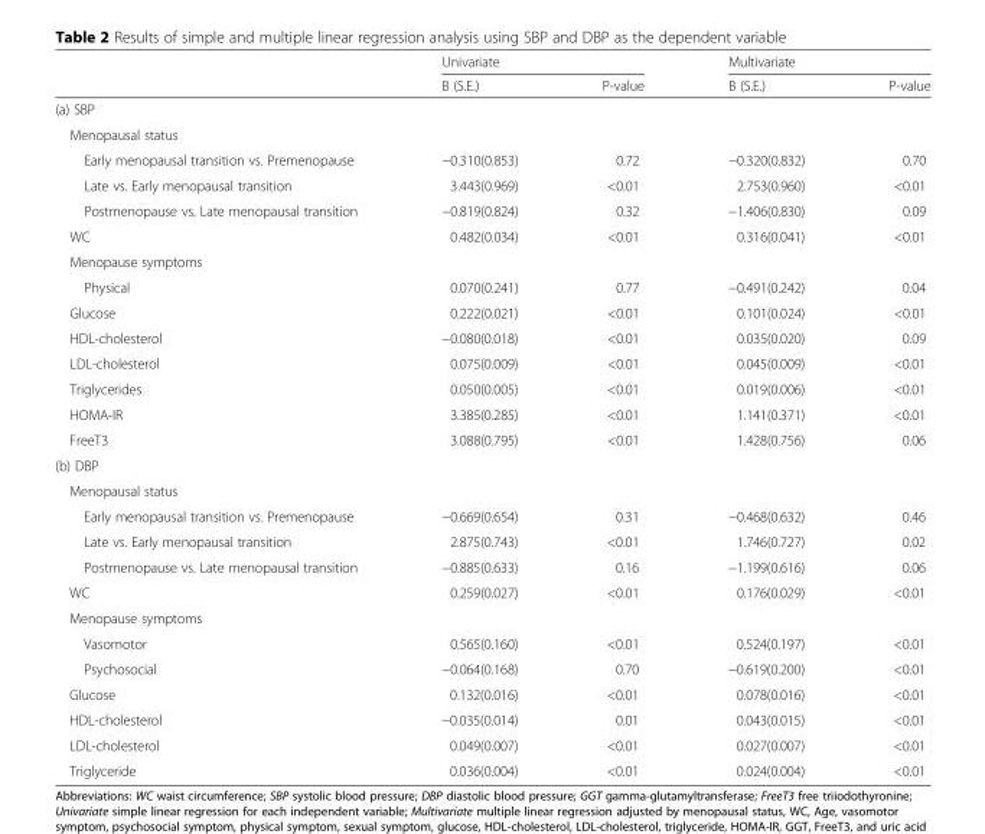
<table><thead><tr><td rowspan="2"></td><td colspan="2">Univariate</td><td colspan="2">Multivariate</td></tr><tr><td>Β (S.E.)</td><td>P-value</td><td>Β (S.E.)</td><td>P-value</td></tr></thead><tbody><tr><td colspan="5">(a) SBP</td></tr><tr><td colspan="5">Menopausal status</td></tr><tr><td>Early menopausal transition vs. Premenopause</td><td>−0.310(0.853)</td><td>0.72</td><td>−0.320(0.832)</td><td>0.70</td></tr><tr><td>Late vs. Early menopausal transition</td><td>3.443(0.969)</td><td>&lt;0.01</td><td>2.753(0.960)</td><td>&lt;0.01</td></tr><tr><td>Postmenopause vs. Late menopausal transition</td><td>−0.819(0.824)</td><td>0.32</td><td>−1.406(0.830)</td><td>0.09</td></tr><tr><td>WC</td><td>0.482(0.034)</td><td>&lt;0.01</td><td>0.316(0.041)</td><td>&lt;0.01</td></tr><tr><td colspan="5">Menopause symptoms</td></tr><tr><td>Physical</td><td>0.070(0.241)</td><td>0.77</td><td>−0.491(0.242)</td><td>0.04</td></tr><tr><td>Glucose</td><td>0.222(0.021)</td><td>&lt;0.01</td><td>0.101(0.024)</td><td>&lt;0.01</td></tr><tr><td>HDL-cholesterol</td><td>−0.080(0.018)</td><td>&lt;0.01</td><td>0.035(0.020)</td><td>0.09</td></tr><tr><td>LDL-cholesterol</td><td>0.075(0.009)</td><td>&lt;0.01</td><td>0.045(0.009)</td><td>&lt;0.01</td></tr><tr><td>Triglycerides</td><td>0.050(0.005)</td><td>&lt;0.01</td><td>0.019(0.006)</td><td>&lt;0.01</td></tr><tr><td>HOMA-IR</td><td>3.385(0.285)</td><td>&lt;0.01</td><td>1.141(0.371)</td><td>&lt;0.01</td></tr><tr><td>FreeT3</td><td>3.088(0.795)</td><td>&lt;0.01</td><td>1.428(0.756)</td><td>0.06</td></tr><tr><td colspan="5">(b) DBP</td></tr><tr><td colspan="5">Menopausal status</td></tr><tr><td>Early menopausal transition vs. Premenopause</td><td>−0.669(0.654)</td><td>0.31</td><td>−0.468(0.632)</td><td>0.46</td></tr><tr><td>Late vs. Early menopausal transition</td><td>2.875(0.743)</td><td>&lt;0.01</td><td>1.746(0.727)</td><td>0.02</td></tr><tr><td>Postmenopause vs. Late menopausal transition</td><td>−0.885(0.633)</td><td>0.16</td><td>−1.199(0.616)</td><td>0.06</td></tr><tr><td>WC</td><td>0.259(0.027)</td><td>&lt;0.01</td><td>0.176(0.029)</td><td>&lt;0.01</td></tr><tr><td colspan="5">Menopause symptoms</td></tr><tr><td>Vasomotor</td><td>0.565(0.160)</td><td>&lt;0.01</td><td>0.524(0.197)</td><td>&lt;0.01</td></tr><tr><td>Psychosocial</td><td>−0.064(0.168)</td><td>0.70</td><td>−0.619(0.200)</td><td>&lt;0.01</td></tr><tr><td>Glucose</td><td>0.132(0.016)</td><td>&lt;0.01</td><td>0.078(0.016)</td><td>&lt;0.01</td></tr><tr><td>HDL-cholesterol</td><td>−0.035(0.014)</td><td>0.01</td><td>0.043(0.015)</td><td>&lt;0.01</td></tr><tr><td>LDL-cholesterol</td><td>0.049(0.007)</td><td>&lt;0.01</td><td>0.027(0.007)</td><td>&lt;0.01</td></tr><tr><td>Triglyceride</td><td>0.036(0.004)</td><td>&lt;0.01</td><td>0.024(0.004)</td><td>&lt;0.01</td></tr></tbody></table>